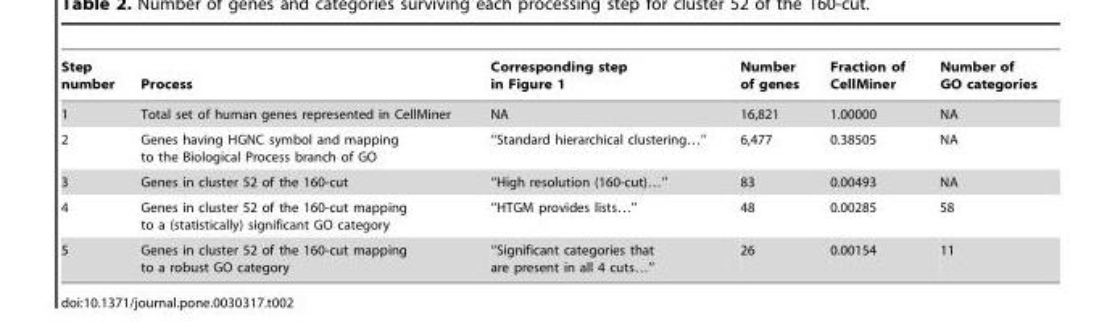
<table><thead><tr><td>Step number</td><td>Process</td><td>Corresponding step in Figure 1</td><td>Number of genes</td><td>Fraction of CellMiner</td><td>Number of GO categories</td></tr></thead><tbody><tr><td>1</td><td>Total set of human genes represented in CellMiner</td><td>NA</td><td>16,821</td><td>1.00000</td><td>NA</td></tr><tr><td>2</td><td>Genes having HGNC symbol and mapping to the Biological Process branch of GO</td><td>‘‘Standard hierarchical clustering…’’</td><td>6,477</td><td>0.38505</td><td>NA</td></tr><tr><td>3</td><td>Genes in cluster 52 of the 160-cut</td><td>‘‘High resolution (160-cut)…’’</td><td>83</td><td>0.00493</td><td>NA</td></tr><tr><td>4</td><td>Genes in cluster 52 of the 160-cut mapping to a (statistically) significant GO category</td><td>‘‘HTGM provides lists…’’</td><td>48</td><td>0.00285</td><td>58</td></tr><tr><td>5</td><td>Genes in cluster 52 of the 160-cut mapping to a robust GO category</td><td>‘‘Significant categories that are present in all 4 cuts…’’</td><td>26</td><td>0.00154</td><td>11</td></tr></tbody></table>